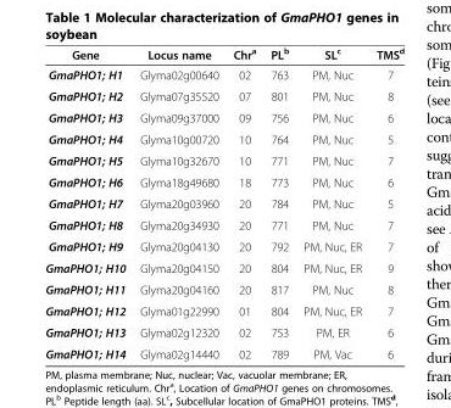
<table><thead><tr><td>Gene</td><td>Locus name</td><td>Chr<sup>a</sup></td><td>PL<sup>b</sup></td><td>SL<sup>c</sup></td><td>TMS<sup>d</sup></td></tr></thead><tbody><tr><td>GmaPHO1; H1</td><td>Glyma02g00640</td><td>02</td><td>763</td><td>PM, Nuc</td><td>7</td></tr><tr><td>GmaPHO1; H2</td><td>Glyma07g35520</td><td>07</td><td>801</td><td>PM, Nuc</td><td>8</td></tr><tr><td>GmaPHO1; H3</td><td>Glyma09g37000</td><td>09</td><td>756</td><td>PM, Nuc</td><td>6</td></tr><tr><td>GmaPHO1; H4</td><td>Glyma10g00720</td><td>10</td><td>764</td><td>PM, Nuc</td><td>5</td></tr><tr><td>GmaPHO1; H5</td><td>Glyma10g32670</td><td>10</td><td>771</td><td>PM, Nuc</td><td>7</td></tr><tr><td>GmaPHO1; H6</td><td>Glyma18g49680</td><td>18</td><td>773</td><td>PM, Nuc</td><td>6</td></tr><tr><td>GmaPHO1; H7</td><td>Glyma20g03960</td><td>20</td><td>784</td><td>PM, Nuc</td><td>5</td></tr><tr><td>GmaPHO1; H8</td><td>Glyma20g34930</td><td>20</td><td>771</td><td>PM, Nuc</td><td>7</td></tr><tr><td>GmaPHO1; H9</td><td>Glyma20g04130</td><td>20</td><td>792</td><td>PM, Nuc, ER</td><td>7</td></tr><tr><td>GmaPHO1; H10</td><td>Glyma20g04150</td><td>20</td><td>804</td><td>PM, Nuc, ER</td><td>9</td></tr><tr><td>GmaPHO1; H11</td><td>Glyma20g04160</td><td>20</td><td>817</td><td>PM, Nuc</td><td>8</td></tr><tr><td>GmaPHO1; H12</td><td>Glyma01g22990</td><td>01</td><td>804</td><td>PM, Nuc, ER</td><td>7</td></tr><tr><td>GmaPHO1; H13</td><td>Glyma02g12320</td><td>02</td><td>753</td><td>PM, ER</td><td>6</td></tr><tr><td>GmaPHO1; H14</td><td>Glyma02g14440</td><td>02</td><td>789</td><td>PM, Vac</td><td>6</td></tr></tbody></table>